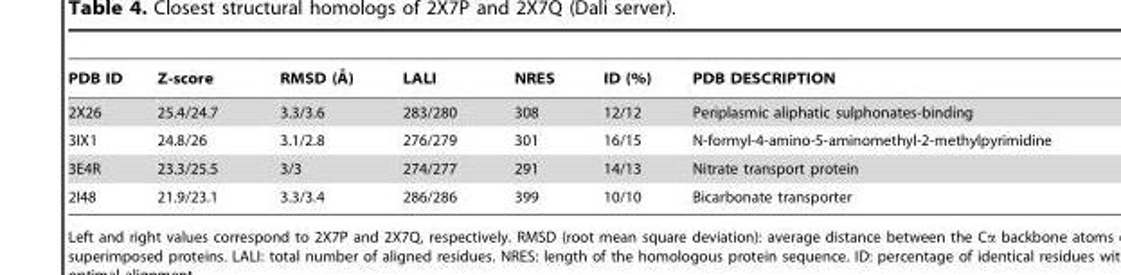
<table><thead><tr><td>PDB ID</td><td>Z-score</td><td>RMSD (A˚ )</td><td>LALI</td><td>NRES</td><td>ID (%)</td><td>PDB DESCRIPTION</td></tr></thead><tbody><tr><td>2X26</td><td>25.4/24.7</td><td>3.3/3.6</td><td>283/280</td><td>308</td><td>12/12</td><td>Periplasmic aliphatic sulphonates-binding</td></tr><tr><td>3IX1</td><td>24.8/26</td><td>3.1/2.8</td><td>276/279</td><td>301</td><td>16/15</td><td>N-formyl-4-amino-5-aminomethyl-2-methylpyrimidine</td></tr><tr><td>3E4R</td><td>23.3/25.5</td><td>3/3</td><td>274/277</td><td>291</td><td>14/13</td><td>Nitrate transport protein</td></tr><tr><td>2I48</td><td>21.9/23.1</td><td>3.3/3.4</td><td>286/286</td><td>399</td><td>10/10</td><td>Bicarbonate transporter</td></tr></tbody></table>